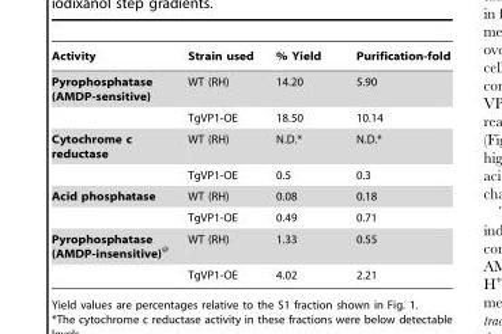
<table><thead><tr><td>Activity</td><td>Strain used</td><td>% Yield</td><td>Purification-fold</td></tr></thead><tbody><tr><td rowspan="2">Pyrophosphatase (AMDP-sensitive)</td><td>WT (RH)</td><td>14.20</td><td>5.90</td></tr><tr><td>TgVP1-OE</td><td>18.50</td><td>10.14</td></tr><tr><td rowspan="2">Cytochrome c reductase</td><td>WT (RH)</td><td>N.D.*</td><td>N.D.*</td></tr><tr><td>TgVP1-OE</td><td>0.5</td><td>0.3</td></tr><tr><td rowspan="2">Acid phosphatase</td><td>WT (RH)</td><td>0.08</td><td>0.18</td></tr><tr><td>TgVP1-OE</td><td>0.49</td><td>0.71</td></tr><tr><td rowspan="2">Pyrophosphatase (AMDP-insensitive)@</td><td>WT (RH)</td><td>1.33</td><td>0.55</td></tr><tr><td>TgVP1-OE</td><td>4.02</td><td>2.21</td></tr></tbody></table>